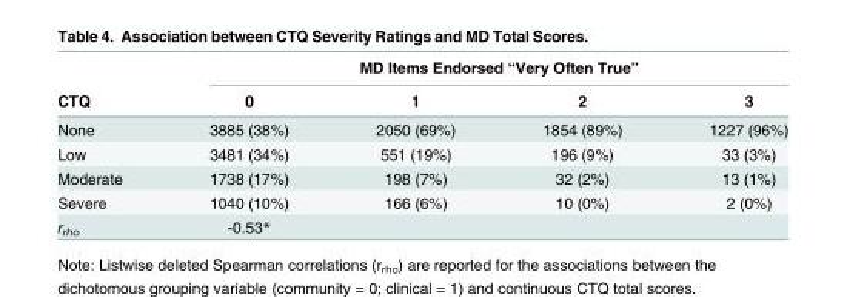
<table><thead><tr><td rowspan="2">CTQ</td><td colspan="4">MD Items Endorsed “Very Often True”</td></tr><tr><td>0</td><td>1</td><td>2</td><td>3</td></tr></thead><tbody><tr><td>None</td><td>3885 (38%)</td><td>2050 (69%)</td><td>1854 (89%)</td><td>1227 (96%)</td></tr><tr><td>Low</td><td>3481 (34%)</td><td>551 (19%)</td><td>196 (9%)</td><td>33 (3%)</td></tr><tr><td>Moderate</td><td>1738 (17%)</td><td>198 (7%)</td><td>32 (2%)</td><td>13 (1%)</td></tr><tr><td>Severe</td><td>1040 (10%)</td><td>166 (6%)</td><td>10 (0%)</td><td>2 (0%)</td></tr><tr><td>r<sub>rho</sub></td><td>-0.53*</td><td></td><td></td><td></td></tr></tbody></table>